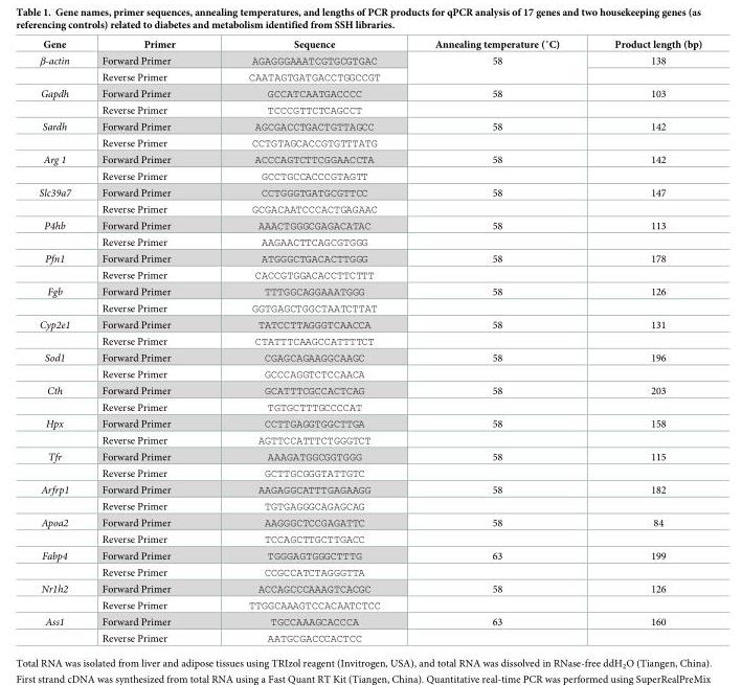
<table><thead><tr><td>Gene</td><td>Primer</td><td>Sequence</td><td>Annealing temperature (˚C)</td><td>Product length (bp)</td></tr></thead><tbody><tr><td rowspan="2">β-actin</td><td>Forward Primer</td><td>AGAGGGAAATCGTGCGTGAC</td><td rowspan="2">58</td><td>138</td></tr><tr><td>Reverse Primer</td><td>CAATAGTGATGACCTGGCCGT</td><td></td></tr><tr><td rowspan="2">Gapdh</td><td>Forward Primer</td><td>GCCATCAATGACCCC</td><td>58</td><td>103</td></tr><tr><td>Reverse Primer</td><td>TCCCGTTCTCAGCCT</td><td></td><td></td></tr><tr><td rowspan="2">Sardh</td><td>Forward Primer</td><td>AGCGACCTGACTGTTAGCC</td><td>58</td><td>142</td></tr><tr><td>Reverse Primer</td><td>CCTGTAGCACCGTGTTTATG</td><td></td><td></td></tr><tr><td rowspan="2">Arg 1</td><td>Forward Primer</td><td>ACCCAGTCTTCGGAACCTA</td><td>58</td><td>142</td></tr><tr><td>Reverse Primer</td><td>GCCTGCCACCCGTAGTT</td><td></td><td></td></tr><tr><td rowspan="2">Slc39a7</td><td>Forward Primer</td><td>CCTGGGTGATGCGTTCC</td><td>58</td><td>147</td></tr><tr><td>Reverse Primer</td><td>GCGACAATCCCACTGAGAAC</td><td></td><td></td></tr><tr><td rowspan="2">P4hb</td><td>Forward Primer</td><td>AAACTGGGCGAGACATAC</td><td>58</td><td>113</td></tr><tr><td>Reverse Primer</td><td>AAGAACTTCAGCGTGGG</td><td></td><td></td></tr><tr><td rowspan="2">Pfn1</td><td>Forward Primer</td><td>ATGGGCTGACACTTGGG</td><td>58</td><td>178</td></tr><tr><td>Reverse Primer</td><td>CACCGTGGACACCTTCTTT</td><td></td><td></td></tr><tr><td rowspan="2">Fgb</td><td>Forward Primer</td><td>TTTGGCAGGAAATGGG</td><td>58</td><td>126</td></tr><tr><td>Reverse Primer</td><td>GGTGAGCTGGCTAATCTTAT</td><td></td><td></td></tr><tr><td rowspan="2">Cyp2e1</td><td>Forward Primer</td><td>TATCCTTAGGGTCAACCA</td><td>58</td><td>131</td></tr><tr><td>Reverse Primer</td><td>CTATTTCAAGCCATTTTCT</td><td></td><td></td></tr><tr><td rowspan="2">Sod1</td><td>Forward Primer</td><td>CGAGCAGAAGGCAAGC</td><td>58</td><td>196</td></tr><tr><td>Reverse Primer</td><td>GCCCAGGTCTCCAACA</td><td></td><td></td></tr><tr><td rowspan="2">Cth</td><td>Forward Primer</td><td>GCATTTCGCCACTCAG</td><td>58</td><td>203</td></tr><tr><td>Reverse Primer</td><td>TGTGCTTTGCCCCAT</td><td></td><td></td></tr><tr><td rowspan="2">Hpx</td><td>Forward Primer</td><td>CCTTGAGGTGGCTTGA</td><td>58</td><td>158</td></tr><tr><td>Reverse Primer</td><td>AGTTCCATTTCTGGGTCT</td><td></td><td></td></tr><tr><td rowspan="2">Tfr</td><td>Forward Primer</td><td>AAAGATGGCGGTGGG</td><td>58</td><td>115</td></tr><tr><td>Reverse Primer</td><td>GCTTGCGGGTATTGTC</td><td></td><td></td></tr><tr><td rowspan="2">Arfrp1</td><td>Forward Primer</td><td>AAGAGGCATTTGAGAAGG</td><td>58</td><td>182</td></tr><tr><td>Reverse Primer</td><td>TGTGAGGGCAGAGCAG</td><td></td><td></td></tr><tr><td rowspan="2">Apoa2</td><td>Forward Primer</td><td>AAGGGCTCCGAGATTC</td><td>58</td><td>84</td></tr><tr><td>Reverse Primer</td><td>TCCAGCTTGCTTGACC</td><td></td><td></td></tr><tr><td rowspan="2">Fabp4</td><td>Forward Primer</td><td>TGGGAGTGGGCTTTG</td><td>63</td><td>199</td></tr><tr><td>Reverse Primer</td><td>CCGCCATCTAGGGTTA</td><td></td><td></td></tr><tr><td rowspan="2">Nr1h2</td><td>Forward Primer</td><td>ACCAGCCCAAAGTCACGC</td><td>58</td><td>126</td></tr><tr><td>Reverse Primer</td><td>TTGGCAAAGTCCACAATCTCC</td><td></td><td></td></tr><tr><td rowspan="2">Ass1</td><td>Forward Primer</td><td>TGCCAAAGCACCCA</td><td>63</td><td>160</td></tr><tr><td>Reverse Primer</td><td>AATGCGACCCACTCC</td><td></td><td></td></tr></tbody></table>